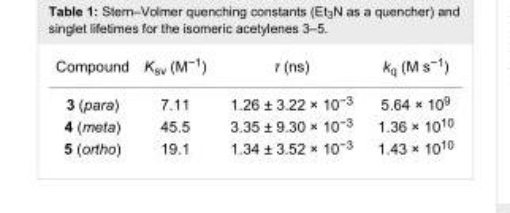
<table><tbody><tr><td>Compound</td><td>K<sub>sv</sub> (M<sup>−1</sup>)</td><td>τ (ns)</td><td>k<sub>q</sub> (M s<sup>−1</sup>)</td></tr><tr><td>3 (para)</td><td>7.11</td><td>1.26 ± 3.22 × 10<sup>−3</sup></td><td>5.64 × 10<sup>9</sup></td></tr><tr><td>4 (meta)</td><td>45.5</td><td>3.35 ± 9.30 × 10<sup>−3</sup></td><td>1.36 × 10<sup>10</sup></td></tr><tr><td>5 (ortho)</td><td>19.1</td><td>1.34 ± 3.52 × 10<sup>−3</sup></td><td>1.43 × 10<sup>10</sup></td></tr></tbody></table>